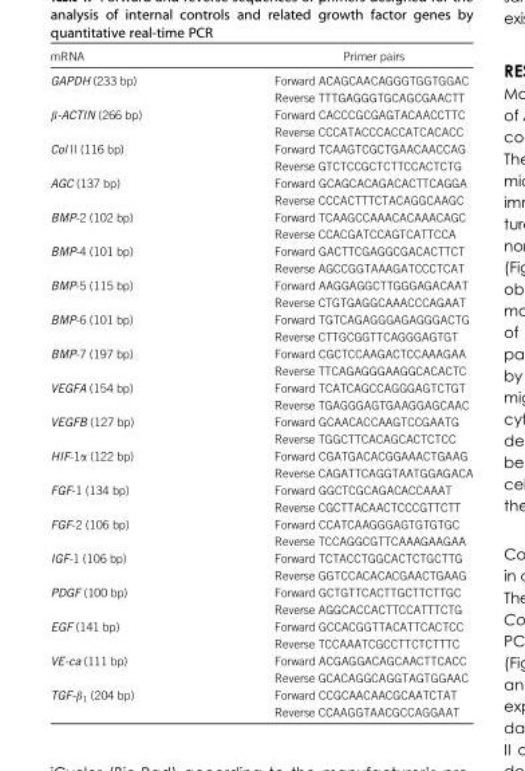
<table><thead><tr><td>mRNA</td><td>Primer pairs</td></tr></thead><tbody><tr><td rowspan="2">GAPDH (233 bp)</td><td>Forward ACAGCAACAGGGTGGTGGAC</td></tr><tr><td>Reverse TTTGAGGGTGCAGCGAACTT</td></tr><tr><td rowspan="2">β-ACTIN (266 bp)</td><td>Forward CACCCGCGAGTACAACCTTC</td></tr><tr><td>Reverse CCCATACCCACCATCACACC</td></tr><tr><td rowspan="2">Col II (116 bp)</td><td>Forward TCAAGTCGCTGAACAACCAG</td></tr><tr><td>Reverse GTCTCCGCTCTTCCACTCTG</td></tr><tr><td rowspan="2">AGC (137 bp)</td><td>Forward GCAGCACAGACACTTCAGGA</td></tr><tr><td>Reverse CCCACTTTCTACAGGCAAGC</td></tr><tr><td rowspan="2">BMP-2 (102 bp)</td><td>Forward TCAAGCCAAACACAAACAGC</td></tr><tr><td>Reverse CCACGATCCAGTCATTCCA</td></tr><tr><td rowspan="2">BMP-4 (101 bp)</td><td>Forward GACTTCGAGGCGACACTTCT</td></tr><tr><td>Reverse AGCCGGTAAAGATCCCTCAT</td></tr><tr><td rowspan="2">BMP-5 (115 bp)</td><td>Forward AAGGAGGCTTGGGAGACAAT</td></tr><tr><td>Reverse CTGTGAGGCAAACCCAGAAT</td></tr><tr><td rowspan="2">BMP-6 (101 bp)</td><td>Forward TGTCAGAGGGAGAGGGACTG</td></tr><tr><td>Reverse CTTGCGGTTCAGGGAGTGT</td></tr><tr><td rowspan="2">BMP-7 (197 bp)</td><td>Forward CGCTCCAAGACTCCAAAGAA</td></tr><tr><td>Reverse TTCAGAGGGAAGGCACACTC</td></tr><tr><td rowspan="2">VEGFA (154 bp)</td><td>Forward TCATCAGCCAGGGAGTCTGT</td></tr><tr><td>Reverse TGAGGGAGTGAAGGAGCAAC</td></tr><tr><td rowspan="2">VEGFB (127 bp)</td><td>Forward GCAACACCAAGTCCGAATG</td></tr><tr><td>Reverse TGGCTTCACAGCACTCTCC</td></tr><tr><td rowspan="2">HIF-1α (122 bp)</td><td>Forward CGATGACACGGAAACTGAAG</td></tr><tr><td>Reverse CAGATTCAGGTAATGGAGACA</td></tr><tr><td rowspan="2">FGF-1 (134 bp)</td><td>Forward GGCTCGCAGACACCAAAT</td></tr><tr><td>Reverse CGCTTACAACTCCCGTTCTT</td></tr><tr><td rowspan="2">FGF-2 (106 bp)</td><td>Forward CCATCAAGGGAGTGTGTGC</td></tr><tr><td>Reverse TCCAGGCGTTCAAAGAAGAA</td></tr><tr><td rowspan="2">IGF-1 (106 bp)</td><td>Forward TCTACCTGGCACTCTGCTTG</td></tr><tr><td>Reverse GGTCCACACACGAACTGAAG</td></tr><tr><td rowspan="2">PDGF (100 bp)</td><td>Forward GCTGTTCACTTGCTTCTTGC</td></tr><tr><td>Reverse AGGCACCACTTCCATTTCTG</td></tr><tr><td rowspan="2">EGF (141 bp)</td><td>Forward GCCACGGTTACATTCACTCC</td></tr><tr><td>Reverse TCCAAATCGCCTTCTCTTTC</td></tr><tr><td rowspan="2">VE-ca (111 bp)</td><td>Forward ACGAGGACAGCAACTTCACC</td></tr><tr><td>Reverse GCACAGGCAGGTAGTGGAAC</td></tr><tr><td rowspan="2">TGF-β<sub>1</sub> (204 bp)</td><td>Forward CCGCAACAACGCAATCTAT</td></tr><tr><td>Reverse CCAAGGTAACGCCAGGAAT</td></tr></tbody></table>